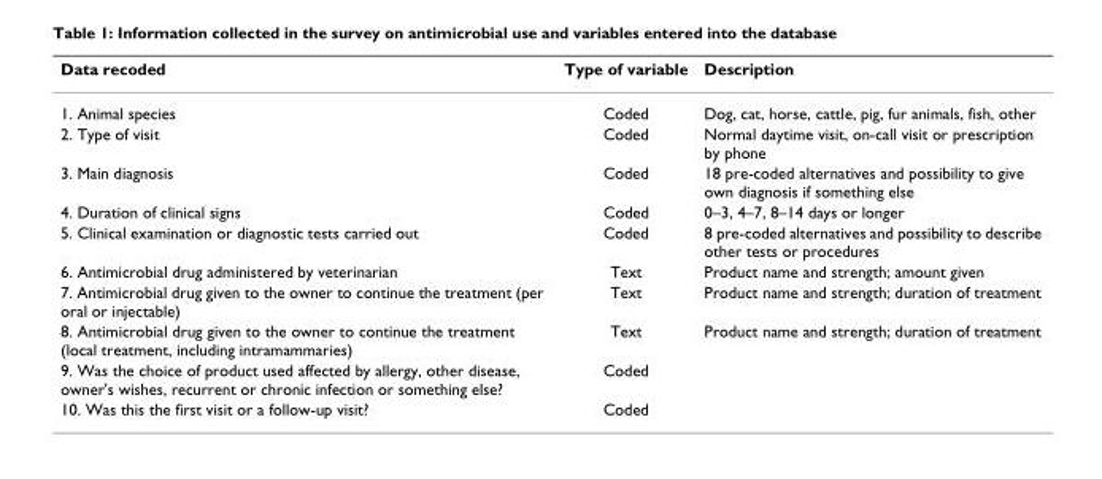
<table><thead><tr><td>Data recoded</td><td>Type of variable</td><td>Description</td></tr></thead><tbody><tr><td>1. Animal species</td><td>Coded</td><td>Dog, cat, horse, cattle, pig, fur animals, fish, other</td></tr><tr><td>2. Type of visit</td><td>Coded</td><td>Normal daytime visit, on-call visit or prescription by phone</td></tr><tr><td>3. Main diagnosis</td><td>Coded</td><td>18 pre-coded alternatives and possibility to give own diagnosis if something else</td></tr><tr><td>4. Duration of clinical signs</td><td>Coded</td><td>0–3, 4–7, 8–14 days or longer</td></tr><tr><td>5. Clinical examination or diagnostic tests carried out</td><td>Coded</td><td>8 pre-coded alternatives and possibility to describe other tests or procedures</td></tr><tr><td>6. Antimicrobial drug administered by veterinarian</td><td>Text</td><td>Product name and strength; amount given</td></tr><tr><td>7. Antimicrobial drug given to the owner to continue the treatment (per oral or injectable)</td><td>Text</td><td>Product name and strength; duration of treatment</td></tr><tr><td>8. Antimicrobial drug given to the owner to continue the treatment (local treatment, including intramammaries)</td><td>Text</td><td>Product name and strength; duration of treatment</td></tr><tr><td>9. Was the choice of product used affected by allergy, other disease, owner&#x27;s wishes, recurrent or chronic infection or something else?</td><td>Coded</td><td></td></tr><tr><td>10. Was this the first visit or a follow-up visit?</td><td>Coded</td><td></td></tr></tbody></table>